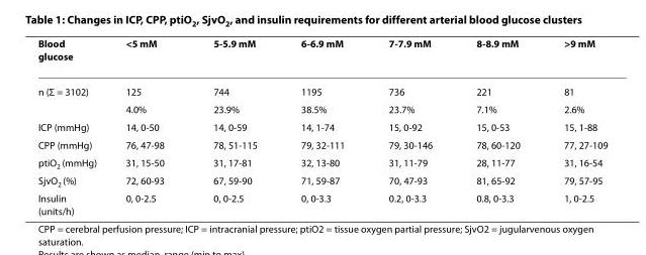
<table><thead><tr><td>Blood glucose</td><td>&lt;5 mM</td><td>5-5.9 mM</td><td>6-6.9 mM</td><td>7-7.9 mM</td><td>8-8.9 mM</td><td>&gt;9 mM</td></tr></thead><tbody><tr><td rowspan="2">n (Σ = 3102)</td><td>125</td><td>744</td><td>1195</td><td>736</td><td>221</td><td>81</td></tr><tr><td>4.0%</td><td>23.9%</td><td>38.5%</td><td>23.7%</td><td>7.1%</td><td>2.6%</td></tr><tr><td>ICP (mmHg)</td><td>14, 0-50</td><td>14, 0-59</td><td>14, 1-74</td><td>15, 0-92</td><td>15, 0-53</td><td>15, 1-88</td></tr><tr><td>CPP (mmHg)</td><td>76, 47-98</td><td>78, 51-115</td><td>79, 32-111</td><td>79, 30-146</td><td>78, 60-120</td><td>77, 27-109</td></tr><tr><td>ptiO<sub>2</sub> (mmHg)</td><td>31, 15-50</td><td>31, 17-81</td><td>32, 13-80</td><td>31, 11-79</td><td>28, 11-77</td><td>31, 16-54</td></tr><tr><td>SjvO<sub>2</sub> (%)</td><td>72, 60-93</td><td>67, 59-90</td><td>71, 59-87</td><td>70, 47-93</td><td>81, 65-92</td><td>79, 57-95</td></tr><tr><td>Insulin (units/h)</td><td>0, 0-2.5</td><td>0, 0-2.5</td><td>0, 0-3.3</td><td>0.2, 0-3.3</td><td>0.8, 0-3.3</td><td>1, 0-2.5</td></tr></tbody></table>